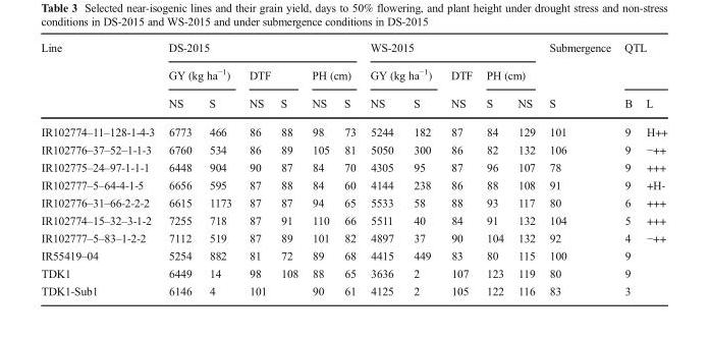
<table><thead><tr><td rowspan="3">Line</td><td colspan="6">DS-2015</td><td colspan="5">WS-2015</td><td rowspan="3">Submergence S</td><td rowspan="2" colspan="2">QTL</td></tr><tr><td colspan="2">GY (kg ha<sup>−1</sup>)</td><td colspan="2">DTF</td><td colspan="2">PH (cm)</td><td colspan="2">GY (kg ha<sup>−1</sup>)</td><td rowspan="2">DTF NS</td><td colspan="2">PH (cm)</td></tr><tr><td>NS</td><td>S</td><td>NS</td><td>S</td><td>NS</td><td>S</td><td>NS</td><td>S</td><td>S</td><td>NS</td><td>B</td><td>L</td></tr></thead><tbody><tr><td>IR102774–11–128-1-4-3</td><td>6773</td><td>466</td><td>86</td><td>88</td><td>98</td><td>73</td><td>5244</td><td>182</td><td>87</td><td>84</td><td>129</td><td>101</td><td>9</td><td>H++</td></tr><tr><td>IR102776–37–52–1-1-3</td><td>6760</td><td>534</td><td>86</td><td>89</td><td>105</td><td>81</td><td>5050</td><td>300</td><td>86</td><td>82</td><td>132</td><td>106</td><td>9</td><td>−++</td></tr><tr><td>IR102775–24–97-1-1-1</td><td>6448</td><td>904</td><td>90</td><td>87</td><td>84</td><td>70</td><td>4305</td><td>95</td><td>87</td><td>96</td><td>107</td><td>78</td><td>9</td><td>+++</td></tr><tr><td>IR102777–5–64-4-1-5</td><td>6656</td><td>595</td><td>87</td><td>88</td><td>84</td><td>60</td><td>4144</td><td>238</td><td>86</td><td>88</td><td>108</td><td>91</td><td>9</td><td>+H-</td></tr><tr><td>IR102776–31–66-2-2-2</td><td>6615</td><td>1173</td><td>87</td><td>87</td><td>94</td><td>65</td><td>5533</td><td>58</td><td>88</td><td>93</td><td>117</td><td>80</td><td>6</td><td>+++</td></tr><tr><td>IR102774–15–32–3-1-2</td><td>7255</td><td>718</td><td>87</td><td>91</td><td>110</td><td>66</td><td>5511</td><td>40</td><td>84</td><td>91</td><td>132</td><td>104</td><td>5</td><td>+++</td></tr><tr><td>IR102777–5–83–1-2-2</td><td>7112</td><td>519</td><td>87</td><td>89</td><td>101</td><td>82</td><td>4897</td><td>37</td><td>90</td><td>104</td><td>132</td><td>92</td><td>4</td><td>−++</td></tr><tr><td>IR55419–04</td><td>5254</td><td>882</td><td>81</td><td>72</td><td>89</td><td>68</td><td>4415</td><td>449</td><td>83</td><td>80</td><td>115</td><td>100</td><td>9</td><td></td></tr><tr><td>TDK1</td><td>6449</td><td>14</td><td>98</td><td>108</td><td>88</td><td>65</td><td>3636</td><td>2</td><td>107</td><td>123</td><td>119</td><td>80</td><td>9</td><td></td></tr><tr><td>TDK1-Sub1</td><td>6146</td><td>4</td><td>101</td><td></td><td>90</td><td>61</td><td>4125</td><td>2</td><td>105</td><td>122</td><td>116</td><td>83</td><td>3</td><td></td></tr></tbody></table>